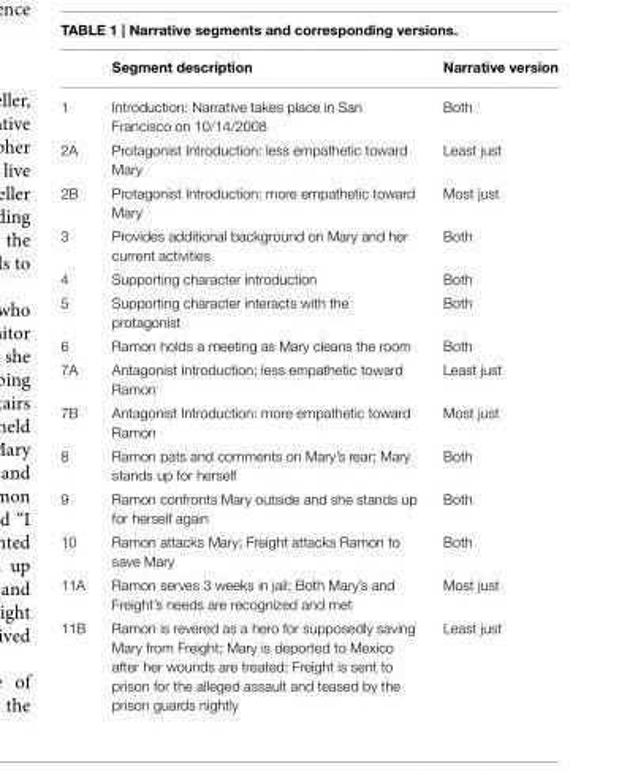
<table><thead><tr><td></td><td>Segment description</td><td>Narrative version</td></tr></thead><tbody><tr><td>1</td><td>Introduction: Narrative takes place in San Francisco on 10/14/2008</td><td>Both</td></tr><tr><td>2A</td><td>Protagonist Introduction: less empathetic toward Mary</td><td>Least just</td></tr><tr><td>2B</td><td>Protagonist Introduction: more empathetic toward Mary</td><td>Most just</td></tr><tr><td>3</td><td>Provides additional background on Mary and her current activities</td><td>Both</td></tr><tr><td>4</td><td>Supporting character introduction</td><td>Both</td></tr><tr><td>5</td><td>Supporting character interacts with the protagonist</td><td>Both</td></tr><tr><td>6</td><td>Ramon holds a meeting as Mary cleans the room</td><td>Both</td></tr><tr><td>7A</td><td>Antagonist Introduction: less empathetic toward Ramon</td><td>Least just</td></tr><tr><td>7B</td><td>Antagonist Introduction: more empathetic toward Ramon</td><td>Most just</td></tr><tr><td>8</td><td>Ramon pats and comments on Mary’s rear; Mary stands up for herself</td><td>Both</td></tr><tr><td>9</td><td>Ramon confronts Mary outside and she stands up for herself again</td><td>Both</td></tr><tr><td>10</td><td>Ramon attacks Mary; Freight attacks Ramon to save Mary</td><td>Both</td></tr><tr><td>11A</td><td>Ramon serves 3 weeks in jail; Both Mary’s and Freight’s needs are recognized and met</td><td>Most just</td></tr><tr><td>11B</td><td>Ramon is revered as a hero for supposedly saving Mary from Freight; Mary is deported to Mexico after her wounds are treated; Freight is sent to prison for the alleged assault and teased by the prison guards nightly</td><td>Least just</td></tr></tbody></table>